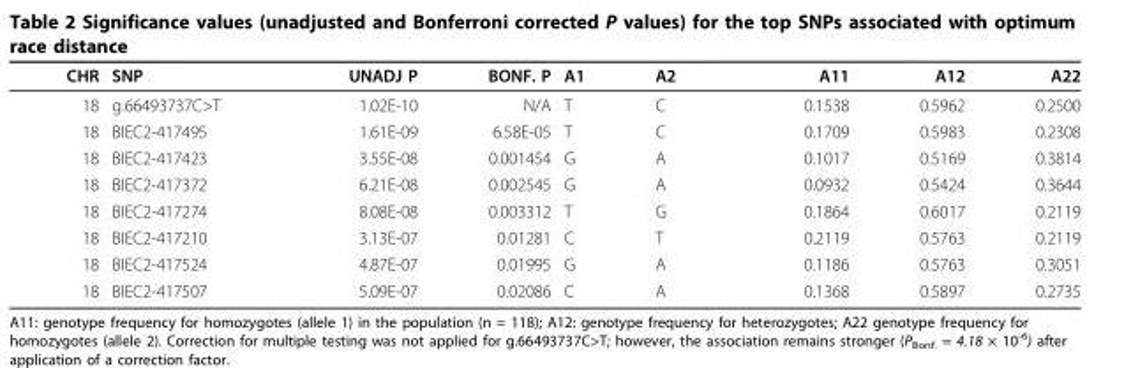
<table><thead><tr><td>CHR</td><td>SNP</td><td>UNADJ P</td><td>BONF. P</td><td>A1</td><td>A2</td><td>A11</td><td>A12</td><td>A22</td></tr></thead><tbody><tr><td>18</td><td>g.66493737C&gt;T</td><td>1.02E-10</td><td>N/A</td><td>T</td><td>C</td><td>0.1538</td><td>0.5962</td><td>0.2500</td></tr><tr><td>18</td><td>BIEC2-417495</td><td>1.61E-09</td><td>6.58E-05</td><td>T</td><td>C</td><td>0.1709</td><td>0.5983</td><td>0.2308</td></tr><tr><td>18</td><td>BIEC2-417423</td><td>3.55E-08</td><td>0.001454</td><td>G</td><td>A</td><td>0.1017</td><td>0.5169</td><td>0.3814</td></tr><tr><td>18</td><td>BIEC2-417372</td><td>6.21E-08</td><td>0.002545</td><td>G</td><td>A</td><td>0.0932</td><td>0.5424</td><td>0.3644</td></tr><tr><td>18</td><td>BIEC2-417274</td><td>8.08E-08</td><td>0.003312</td><td>T</td><td>G</td><td>0.1864</td><td>0.6017</td><td>0.2119</td></tr><tr><td>18</td><td>BIEC2-417210</td><td>3.13E-07</td><td>0.01281</td><td>C</td><td>T</td><td>0.2119</td><td>0.5763</td><td>0.2119</td></tr><tr><td>18</td><td>BIEC2-417524</td><td>4.87E-07</td><td>0.01995</td><td>G</td><td>A</td><td>0.1186</td><td>0.5763</td><td>0.3051</td></tr><tr><td>18</td><td>BIEC2-417507</td><td>5.09E-07</td><td>0.02086</td><td>C</td><td>A</td><td>0.1368</td><td>0.5897</td><td>0.2735</td></tr></tbody></table>